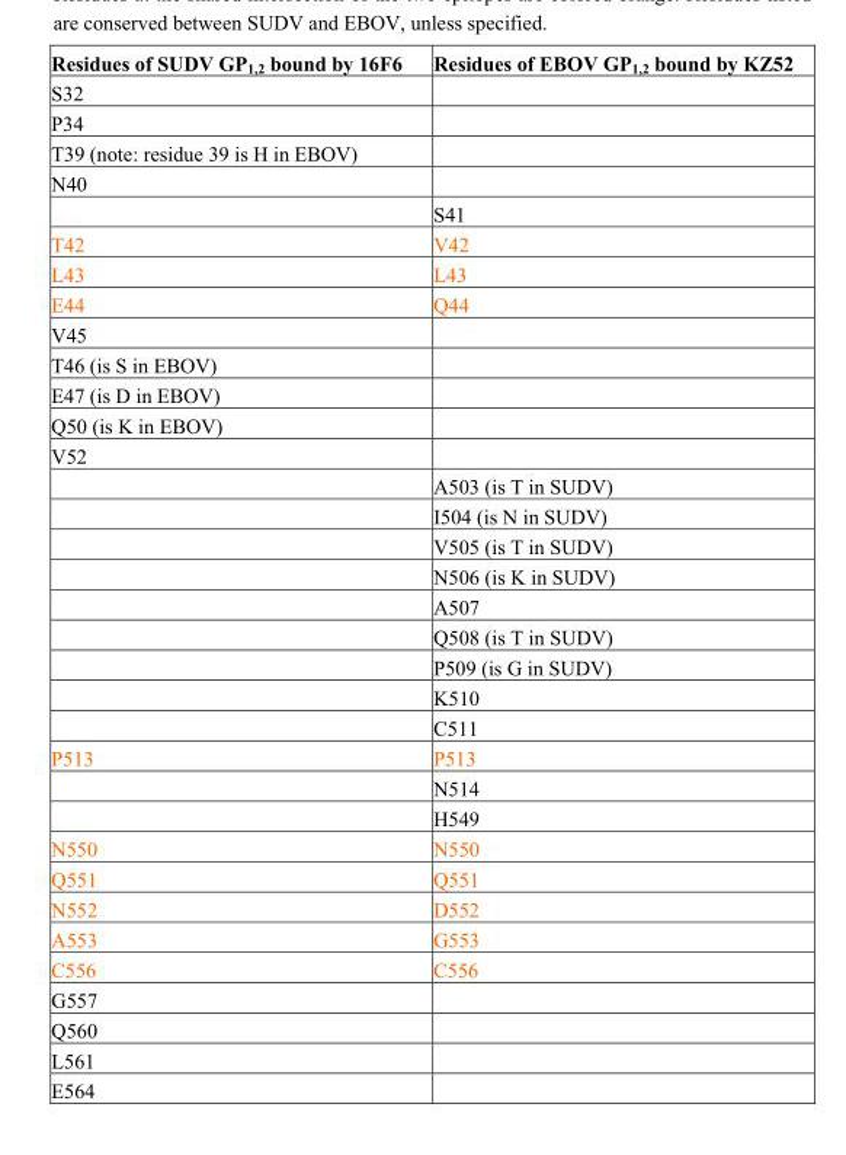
<table><thead><tr><td>Residues of SUDV GP<sub>1,2</sub> bound by 16F6</td><td>Residues of EBOV GP<sub>1,2</sub> bound by KZ52</td></tr></thead><tbody><tr><td colspan="2">S32</td></tr><tr><td colspan="2">P34</td></tr><tr><td colspan="2">T39 (note: residue 39 is H in EBOV)</td></tr><tr><td colspan="2">N40</td></tr><tr><td></td><td>S41</td></tr><tr><td>T42</td><td>V42</td></tr><tr><td>L43</td><td>L43</td></tr><tr><td>E44</td><td>Q44</td></tr><tr><td colspan="2">V45</td></tr><tr><td colspan="2">T46 (is S in EBOV)</td></tr><tr><td colspan="2">E47 (is D in EBOV)</td></tr><tr><td colspan="2">Q50 (is K in EBOV)</td></tr><tr><td colspan="2">V52</td></tr><tr><td></td><td>A503 (is T in SUDV)</td></tr><tr><td></td><td>I504 (is N in SUDV)</td></tr><tr><td></td><td>V505 (is T in SUDV)</td></tr><tr><td></td><td>N506 (is K in SUDV)</td></tr><tr><td></td><td>A507</td></tr><tr><td></td><td>Q508 (is T in SUDV)</td></tr><tr><td></td><td>P509 (is G in SUDV)</td></tr><tr><td></td><td>K510</td></tr><tr><td></td><td>C511</td></tr><tr><td rowspan="3">P513</td><td>P513</td></tr><tr><td>N514</td></tr><tr><td>H549</td></tr><tr><td>N550</td><td>N550</td></tr><tr><td>Q551</td><td>Q551</td></tr><tr><td>N552</td><td>D552</td></tr><tr><td>A553</td><td>G553</td></tr><tr><td>C556</td><td>C556</td></tr><tr><td colspan="2">G557</td></tr><tr><td colspan="2">Q560</td></tr><tr><td colspan="2">L561</td></tr><tr><td>E564</td><td></td></tr></tbody></table>